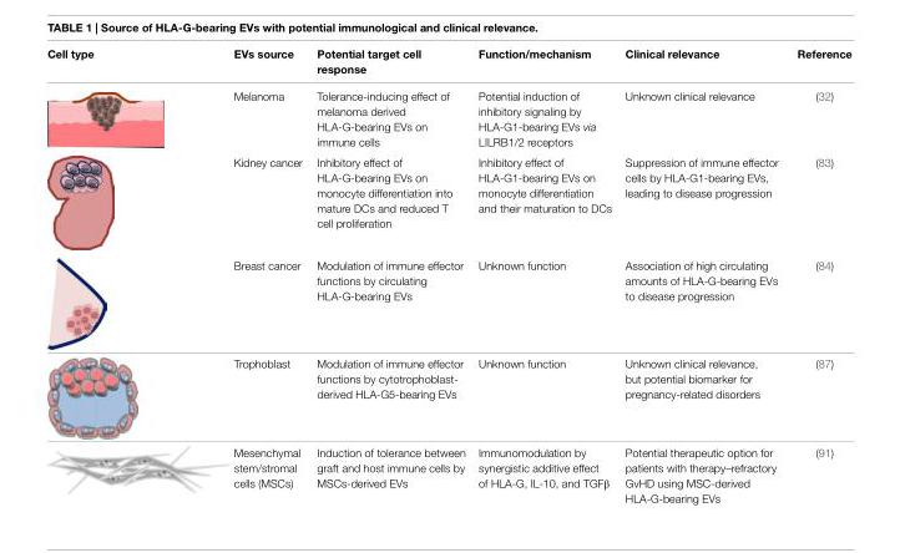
<table><thead><tr><td>cell type</td><td>evs source</td><td>Potential target cell response</td><td>Function/mechanism</td><td>clinical relevance</td><td>reference</td></tr></thead><tbody><tr><td></td><td>Melanoma</td><td>Tolerance-inducing effect of melanoma derived HLA-G-bearing EVs on immune cells</td><td>Potential induction of inhibitory signaling by HLA-G1-bearing EVs via LILRB1/2 receptors</td><td>Unknown clinical relevance</td><td>(32)</td></tr><tr><td></td><td>Kidney cancer</td><td>Inhibitory effect of HLA-G-bearing EVs on monocyte differentiation into mature DCs and reduced T cell proliferation</td><td>Inhibitory effect of HLA-G1-bearing EVs on monocyte differentiation and their maturation to DCs</td><td>Suppression of immune effector cells by HLA-G1-bearing EVs, leading to disease progression</td><td>(83)</td></tr><tr><td></td><td>Breast cancer</td><td>Modulation of immune effector functions by circulating HLA-G-bearing EVs</td><td>Unknown function</td><td>Association of high circulating amounts of HLA-G-bearing EVs to disease progression</td><td>(84)</td></tr><tr><td></td><td>Trophoblast</td><td>Modulation of immune effector functions by cytotrophoblast- derived HLA-G5-bearing EVs</td><td>Unknown function</td><td>Unknown clinical relevance, but potential biomarker for pregnancy-related disorders</td><td>(87)</td></tr><tr><td></td><td>Mesenchymal stem/stromal cells (MSCs)</td><td>Induction of tolerance between graft and host immune cells by MSCs-derived EVs</td><td>Immunomodulation by synergistic additive effect of HLA-G, IL-10, and TGFβ</td><td>Potential therapeutic option for patients with therapy–refractory GvHD using MSC-derived HLA-G-bearing EVs</td><td>(91)</td></tr></tbody></table>